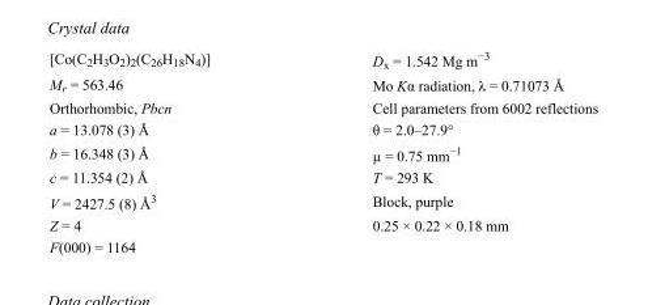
<table><tbody><tr><td>[Co(C<sub>2</sub>H<sub>3</sub>O<sub>2</sub>)<sub>2</sub>(C<sub>26</sub>H<sub>18</sub>N<sub>4</sub>)]</td><td>D<sub>x</sub> = 1.542 Mg m<sup>−3</sup></td></tr><tr><td>M<sub>r</sub> = 563.46</td><td>Mo Kα radiation, λ = 0.71073 Å</td></tr><tr><td>Orthorhombic, Pbcn</td><td>Cell parameters from 6002 reflections</td></tr><tr><td>a = 13.078 (3) Å</td><td>θ = 2.0–27.9°</td></tr><tr><td>b = 16.348 (3) Å</td><td>µ = 0.75 mm<sup>−1</sup></td></tr><tr><td>c = 11.354 (2) Å</td><td>T = 293 K</td></tr><tr><td>V = 2427.5 (8) Å<sup>3</sup></td><td>Block, purple</td></tr><tr><td>Z = 4</td><td>0.25 × 0.22 × 0.18 mm</td></tr><tr><td>F(000) = 1164</td><td></td></tr></tbody></table>